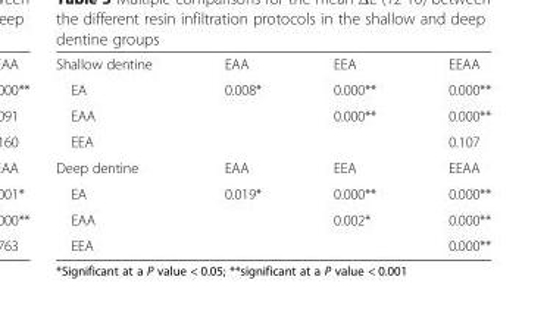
<table><tbody><tr><td>Shallow dentine</td><td>EAA</td><td>EEA</td><td>EEAA</td></tr><tr><td>EA</td><td>0.008*</td><td>0.000**</td><td>0.000**</td></tr><tr><td>EAA</td><td></td><td>0.000**</td><td>0.000**</td></tr><tr><td>EEA</td><td></td><td></td><td>0.107</td></tr><tr><td>Deep dentine</td><td>EAA</td><td>EEA</td><td>EEAA</td></tr><tr><td>EA</td><td>0.019*</td><td>0.000**</td><td>0.000**</td></tr><tr><td>EAA</td><td></td><td>0.002*</td><td>0.000**</td></tr><tr><td>EEA</td><td></td><td></td><td>0.000**</td></tr></tbody></table>